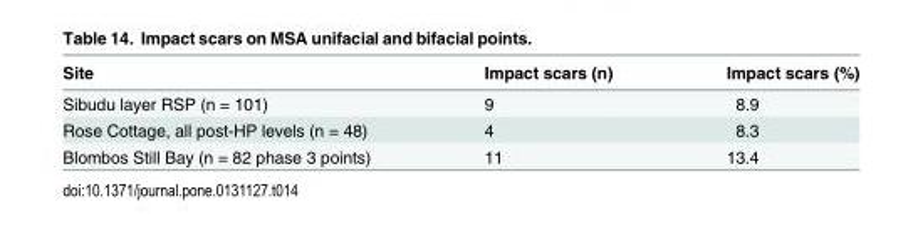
<table><thead><tr><td>Site</td><td>Impact scars (n)</td><td>Impact scars (%)</td></tr></thead><tbody><tr><td>Sibudu layer RSP (n = 101)</td><td>9</td><td>8.9</td></tr><tr><td>Rose Cottage, all post-HP levels (n = 48)</td><td>4</td><td>8.3</td></tr><tr><td>Blombos Still Bay (n = 82 phase 3 points)</td><td>11</td><td>13.4</td></tr></tbody></table>